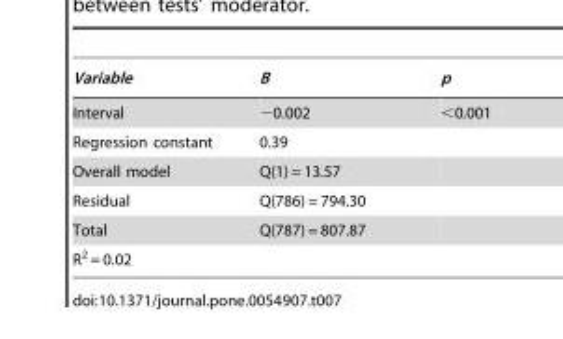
<table><thead><tr><td>Variable</td><td>B</td><td>p</td></tr></thead><tbody><tr><td>Interval</td><td>−0.002</td><td>&lt;0.001</td></tr><tr><td>Regression constant</td><td>0.39</td><td></td></tr><tr><td>Overall model</td><td>Q(1) = 13.57</td><td></td></tr><tr><td>Residual</td><td>Q(786) = 794.30</td><td></td></tr><tr><td>Total</td><td>Q(787) = 807.87</td><td></td></tr><tr><td>R<sup>2</sup> = 0.02</td><td></td><td></td></tr></tbody></table>